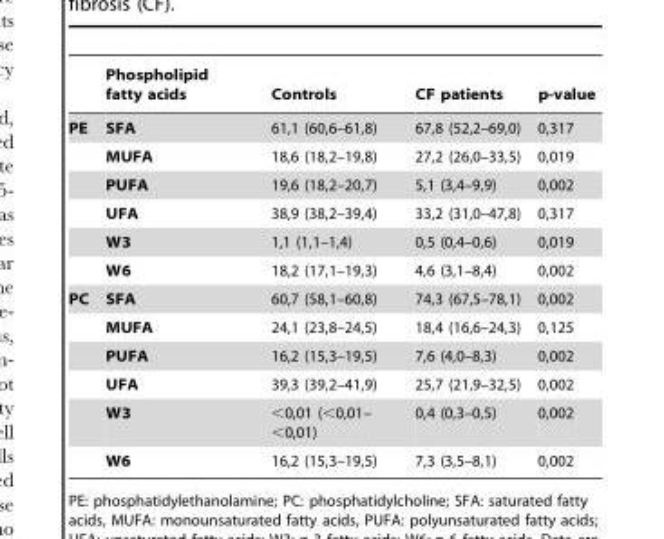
<table><thead><tr><td></td><td>Phospholipid fatty acids</td><td>Controls</td><td>CF patients</td><td>p-value</td></tr></thead><tbody><tr><td rowspan="6">PE</td><td>SFA</td><td>61,1 (60,6–61,8)</td><td>67,8 (52,2–69,0)</td><td>0,317</td></tr><tr><td>MUFA</td><td>18,6 (18,2–19,8)</td><td>27,2 (26,0–33,5)</td><td>0,019</td></tr><tr><td>PUFA</td><td>19,6 (18,2–20,7)</td><td>5,1 (3,4–9,9)</td><td>0,002</td></tr><tr><td>UFA</td><td>38,9 (38,2–39,4)</td><td>33,2 (31,0–47,8)</td><td>0,317</td></tr><tr><td>W3</td><td>1,1 (1,1–1,4)</td><td>0,5 (0,4–0,6)</td><td>0,019</td></tr><tr><td>W6</td><td>18,2 (17,1–19,3)</td><td>4,6 (3,1–8,4)</td><td>0,002</td></tr><tr><td rowspan="6">PC</td><td>SFA</td><td>60,7 (58,1–60,8)</td><td>74,3 (67,5–78,1)</td><td>0,002</td></tr><tr><td>MUFA</td><td>24,1 (23,8–24,5)</td><td>18,4 (16,6–24,3)</td><td>0,125</td></tr><tr><td>PUFA</td><td>16,2 (15,3–19,5)</td><td>7,6 (4,0–8,3)</td><td>0,002</td></tr><tr><td>UFA</td><td>39,3 (39,2–41,9)</td><td>25,7 (21,9–32,5)</td><td>0,002</td></tr><tr><td>W3</td><td>&lt;0,01 (&lt;0,01– &lt;0,01)</td><td>0,4 (0,3–0,5)</td><td>0,002</td></tr><tr><td>W6</td><td>16,2 (15,3–19,5)</td><td>7,3 (3,5–8,1)</td><td>0,002</td></tr></tbody></table>